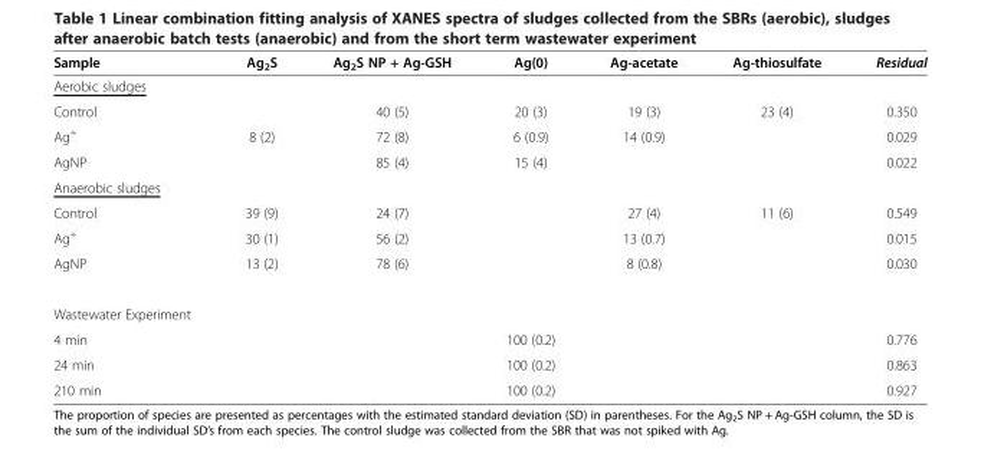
<table><thead><tr><td>Sample</td><td>Ag<sub>2</sub>S</td><td>Ag<sub>2</sub>S NP + Ag-GSH</td><td>Ag(0)</td><td>Ag-acetate</td><td>Ag-thiosulfate</td><td>Residual</td></tr></thead><tbody><tr><td colspan="7">Aerobic sludges</td></tr><tr><td>Control</td><td></td><td>40 (5)</td><td>20 (3)</td><td>19 (3)</td><td>23 (4)</td><td>0.350</td></tr><tr><td>Ag<sup>+</sup></td><td>8 (2)</td><td>72 (8)</td><td>6 (0.9)</td><td>14 (0.9)</td><td></td><td>0.029</td></tr><tr><td>AgNP</td><td></td><td>85 (4)</td><td>15 (4)</td><td></td><td></td><td>0.022</td></tr><tr><td colspan="7">Anaerobic sludges</td></tr><tr><td>Control</td><td>39 (9)</td><td>24 (7)</td><td></td><td>27 (4)</td><td>11 (6)</td><td>0.549</td></tr><tr><td>Ag<sup>+</sup></td><td>30 (1)</td><td>56 (2)</td><td></td><td>13 (0.7)</td><td></td><td>0.015</td></tr><tr><td>AgNP</td><td>13 (2)</td><td>78 (6)</td><td></td><td>8 (0.8)</td><td></td><td>0.030</td></tr><tr><td colspan="7">Wastewater Experiment</td></tr><tr><td>4 min</td><td></td><td></td><td>100 (0.2)</td><td></td><td></td><td>0.776</td></tr><tr><td>24 min</td><td></td><td></td><td>100 (0.2)</td><td></td><td></td><td>0.863</td></tr><tr><td>210 min</td><td></td><td></td><td>100 (0.2)</td><td></td><td></td><td>0.927</td></tr></tbody></table>